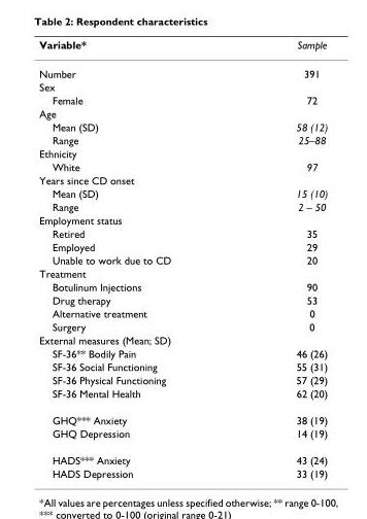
<table><thead><tr><td>Variable*</td><td>Sample</td></tr></thead><tbody><tr><td>Number</td><td>391</td></tr><tr><td colspan="2">Sex</td></tr><tr><td>Female</td><td>72</td></tr><tr><td colspan="2">Age</td></tr><tr><td>Mean (SD)</td><td>58 (12)</td></tr><tr><td>Range</td><td>25–88</td></tr><tr><td colspan="2">Ethnicity</td></tr><tr><td>White</td><td>97</td></tr><tr><td colspan="2">Years since CD onset</td></tr><tr><td>Mean (SD)</td><td>15 (10)</td></tr><tr><td>Range</td><td>2 – 50</td></tr><tr><td colspan="2">Employment status</td></tr><tr><td>Retired</td><td>35</td></tr><tr><td>Employed</td><td>29</td></tr><tr><td>Unable to work due to CD</td><td>20</td></tr><tr><td colspan="2">Treatment</td></tr><tr><td>Botulinum Injections</td><td>90</td></tr><tr><td>Drug therapy</td><td>53</td></tr><tr><td>Alternative treatment</td><td>0</td></tr><tr><td>Surgery</td><td>0</td></tr><tr><td colspan="2">External measures (Mean; SD)</td></tr><tr><td>SF-36** Bodily Pain</td><td>46 (26)</td></tr><tr><td>SF-36 Social Functioning</td><td>55 (31)</td></tr><tr><td>SF-36 Physical Functioning</td><td>57 (29)</td></tr><tr><td>SF-36 Mental Health</td><td>62 (20)</td></tr><tr><td>GHQ*** Anxiety</td><td>38 (19)</td></tr><tr><td>GHQ Depression</td><td>14 (19)</td></tr><tr><td>HADS*** Anxiety</td><td>43 (24)</td></tr><tr><td>HADS Depression</td><td>33 (19)</td></tr></tbody></table>